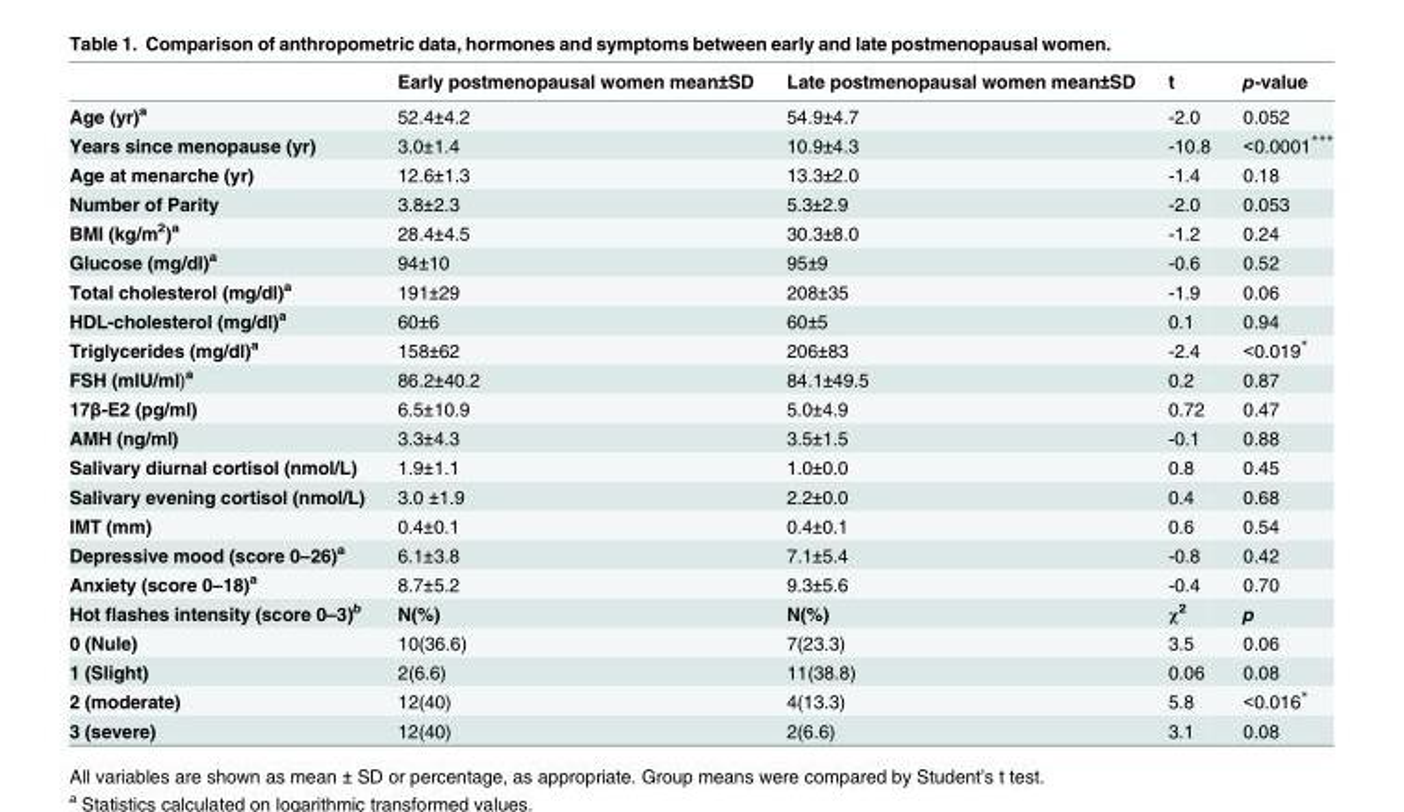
<table><thead><tr><td></td><td>Early postmenopausal women mean±SD</td><td>Late postmenopausal women mean±SD</td><td>t</td><td>p-value</td></tr></thead><tbody><tr><td>Age (yr)<sup>a</sup></td><td>52.4±4.2</td><td>54.9±4.7</td><td>-2.0</td><td>0.052</td></tr><tr><td>Years since menopause (yr)</td><td>3.0±1.4</td><td>10.9±4.3</td><td>-10.8</td><td>&lt;0.0001***</td></tr><tr><td>Age at menarche (yr)</td><td>12.6±1.3</td><td>13.3±2.0</td><td>-1.4</td><td>0.18</td></tr><tr><td>Number of Parity</td><td>3.8±2.3</td><td>5.3±2.9</td><td>-2.0</td><td>0.053</td></tr><tr><td>BMI (kg/m<sup>2</sup>)<sup>a</sup></td><td>28.4±4.5</td><td>30.3±8.0</td><td>-1.2</td><td>0.24</td></tr><tr><td>Glucose (mg/dl)<sup>a</sup></td><td>94±10</td><td>95±9</td><td>-0.6</td><td>0.52</td></tr><tr><td>Total cholesterol (mg/dl)<sup>a</sup></td><td>191±29</td><td>208±35</td><td>-1.9</td><td>0.06</td></tr><tr><td>HDL-cholesterol (mg/dl)<sup>a</sup></td><td>60±6</td><td>60±5</td><td>0.1</td><td>0.94</td></tr><tr><td>Triglycerides (mg/dl)<sup>a</sup></td><td>158±62</td><td>206±83</td><td>-2.4</td><td>&lt;0.019*</td></tr><tr><td>FSH (mIU/ml)<sup>a</sup></td><td>86.2±40.2</td><td>84.1±49.5</td><td>0.2</td><td>0.87</td></tr><tr><td>17β-E2 (pg/ml)</td><td>6.5±10.9</td><td>5.0±4.9</td><td>0.72</td><td>0.47</td></tr><tr><td>AMH (ng/ml)</td><td>3.3±4.3</td><td>3.5±1.5</td><td>-0.1</td><td>0.88</td></tr><tr><td>Salivary diurnal cortisol (nmol/L)</td><td>1.9±1.1</td><td>1.0±0.0</td><td>0.8</td><td>0.45</td></tr><tr><td>Salivary evening cortisol (nmol/L)</td><td>3.0 ±1.9</td><td>2.2±0.0</td><td>0.4</td><td>0.68</td></tr><tr><td>IMT (mm)</td><td>0.4±0.1</td><td>0.4±0.1</td><td>0.6</td><td>0.54</td></tr><tr><td>Depressive mood (score 0–26)<sup>a</sup></td><td>6.1±3.8</td><td>7.1±5.4</td><td>-0.8</td><td>0.42</td></tr><tr><td>Anxiety (score 0–18)<sup>a</sup></td><td>8.7±5.2</td><td>9.3±5.6</td><td>-0.4</td><td>0.70</td></tr><tr><td>Hot flashes intensity (score 0–3)<sup>b</sup></td><td>N(%)</td><td>N(%)</td><td>χ<sup>2</sup></td><td>p</td></tr><tr><td>0 (Nule)</td><td>10(36.6)</td><td>7(23.3)</td><td>3.5</td><td>0.06</td></tr><tr><td>1 (Slight)</td><td>2(6.6)</td><td>11(38.8)</td><td>0.06</td><td>0.08</td></tr><tr><td>2 (moderate)</td><td>12(40)</td><td>4(13.3)</td><td>5.8</td><td>&lt;0.016*</td></tr><tr><td>3 (severe)</td><td>12(40)</td><td>2(6.6)</td><td>3.1</td><td>0.08</td></tr></tbody></table>